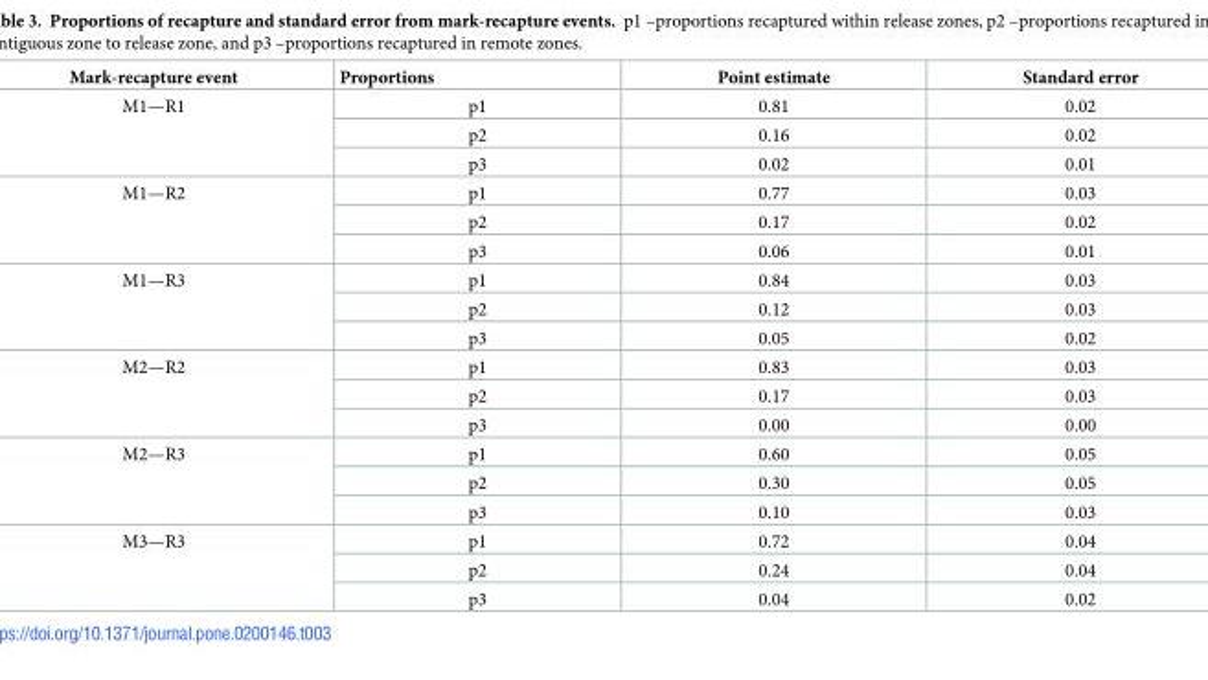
<table><thead><tr><td>Mark-recapture event</td><td>Proportions</td><td>Point estimate</td><td>Standard error</td></tr></thead><tbody><tr><td rowspan="3">M1—R1</td><td>p1</td><td>0.81</td><td>0.02</td></tr><tr><td>p2</td><td>0.16</td><td>0.02</td></tr><tr><td>p3</td><td>0.02</td><td>0.01</td></tr><tr><td rowspan="3">M1—R2</td><td>p1</td><td>0.77</td><td>0.03</td></tr><tr><td>p2</td><td>0.17</td><td>0.02</td></tr><tr><td>p3</td><td>0.06</td><td>0.01</td></tr><tr><td rowspan="3">M1—R3</td><td>p1</td><td>0.84</td><td>0.03</td></tr><tr><td>p2</td><td>0.12</td><td>0.03</td></tr><tr><td>p3</td><td>0.05</td><td>0.02</td></tr><tr><td rowspan="3">M2—R2</td><td>p1</td><td>0.83</td><td>0.03</td></tr><tr><td>p2</td><td>0.17</td><td>0.03</td></tr><tr><td>p3</td><td>0.00</td><td>0.00</td></tr><tr><td rowspan="3">M2—R3</td><td>p1</td><td>0.60</td><td>0.05</td></tr><tr><td>p2</td><td>0.30</td><td>0.05</td></tr><tr><td>p3</td><td>0.10</td><td>0.03</td></tr><tr><td rowspan="3">M3—R3</td><td>p1</td><td>0.72</td><td>0.04</td></tr><tr><td>p2</td><td>0.24</td><td>0.04</td></tr><tr><td>p3</td><td>0.04</td><td>0.02</td></tr></tbody></table>